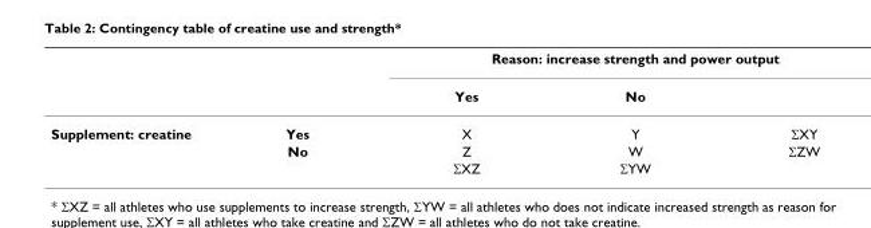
<table><thead><tr><td rowspan="2"></td><td rowspan="2"></td><td colspan="3">Reason: increase strength and power output</td></tr><tr><td>Yes</td><td>No</td><td></td></tr></thead><tbody><tr><td rowspan="3">Supplement: creatine</td><td>Yes</td><td>X</td><td>Y</td><td>ΣXY</td></tr><tr><td>No</td><td>Z</td><td>W</td><td>ΣZW</td></tr><tr><td></td><td>ΣXZ</td><td>ΣYW</td><td></td></tr></tbody></table>